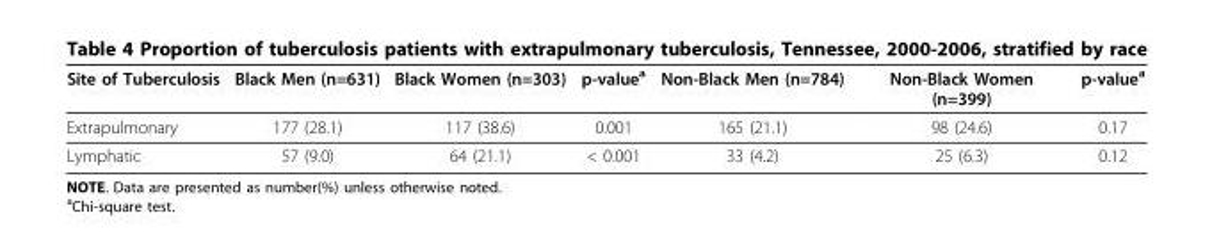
<table><thead><tr><td>Site of Tuberculosis</td><td>Black Men (n=631)</td><td>Black Women (n=303)</td><td>p-value<sup>a</sup></td><td>Non-Black Men (n=784)</td><td>Non-Black Women (n=399)</td><td>p-value<sup>a</sup></td></tr></thead><tbody><tr><td>Extrapulmonary</td><td>177 (28.1)</td><td>117 (38.6)</td><td>0.001</td><td>165 (21.1)</td><td>98 (24.6)</td><td>0.17</td></tr><tr><td>Lymphatic</td><td>57 (9.0)</td><td>64 (21.1)</td><td>&lt; 0.001</td><td>33 (4.2)</td><td>25 (6.3)</td><td>0.12</td></tr></tbody></table>